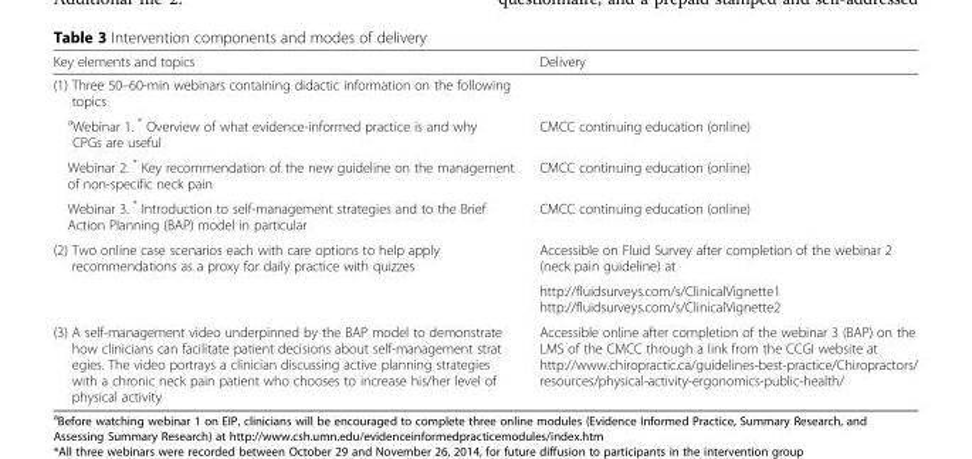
<table><thead><tr><td>Key elements and topics</td><td>Delivery</td></tr></thead><tbody><tr><td colspan="2">(1) Three 50–60-min webinars containing didactic information on the following topics</td></tr><tr><td><sup>a</sup>Webinar 1. * Overview of what evidence-informed practice is and why CPGs are useful</td><td>CMCC continuing education (online)</td></tr><tr><td>Webinar 2. * Key recommendation of the new guideline on the management of non-specific neck pain</td><td>CMCC continuing education (online)</td></tr><tr><td>Webinar 3. * Introduction to self-management strategies and to the Brief Action Planning (BAP) model in particular</td><td>CMCC continuing education (online)</td></tr><tr><td rowspan="2">(2) Two online case scenarios each with care options to help apply recommendations as a proxy for daily practice with quizzes</td><td>Accessible on Fluid Survey after completion of the webinar 2 (neck pain guideline) at</td></tr><tr><td>http://fluidsurveys.com/s/ClinicalVignette1 http://fluidsurveys.com/s/ClinicalVignette2</td></tr><tr><td>(3) A self-management video underpinned by the BAP model to demonstrate how clinicians can facilitate patient decisions about self-management strat egies. The video portrays a clinician discussing active planning strategies with a chronic neck pain patient who chooses to increase his/her level of physical activity</td><td>Accessible online after completion of the webinar 3 (BAP) on the LMS of the CMCC through a link from the CCGI website at http://www.chiropractic.ca/guidelines-best-practice/Chiropractors/ resources/physical-activity-ergonomics-public-health/</td></tr></tbody></table>